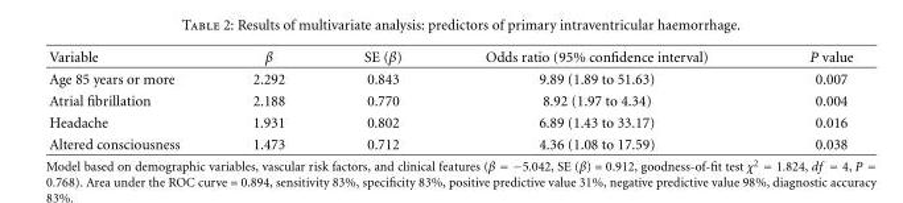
<table><thead><tr><td>Variable</td><td>β</td><td>SE (β)</td><td>Odds ratio (95% confidence interval)</td><td>P value</td></tr></thead><tbody><tr><td>Age 85 years or more</td><td>2.292</td><td>0.843</td><td>9.89 (1.89 to 51.63)</td><td>0.007</td></tr><tr><td>Atrial fibrillation</td><td>2.188</td><td>0.770</td><td>8.92 (1.97 to 4.34)</td><td>0.004</td></tr><tr><td>Headache</td><td>1.931</td><td>0.802</td><td>6.89 (1.43 to 33.17)</td><td>0.016</td></tr><tr><td>Altered consciousness</td><td>1.473</td><td>0.712</td><td>4.36 (1.08 to 17.59)</td><td>0.038</td></tr></tbody></table>